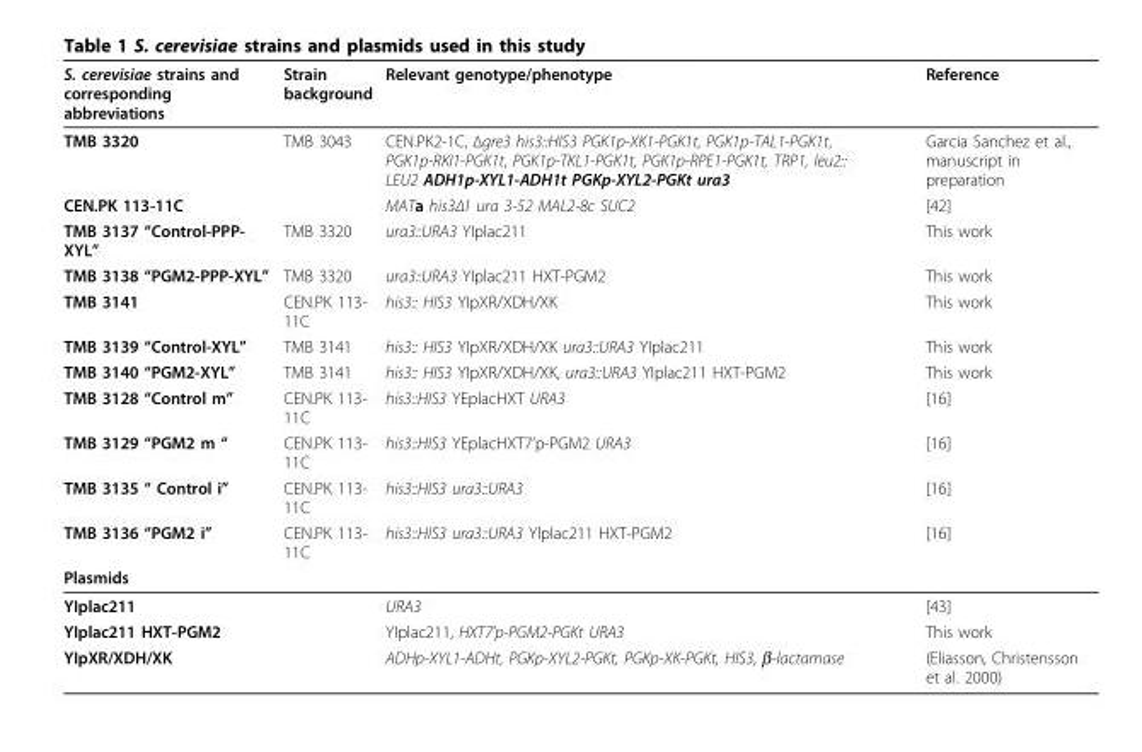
<table><thead><tr><td>S. cerevisiae strains and corresponding abbreviations</td><td>Strain background</td><td>Relevant genotype/phenotype</td><td>Reference</td></tr></thead><tbody><tr><td>TMB 3320</td><td>TMB 3043</td><td>CEN.PK2-1C, Δgre3 his3::HIS3 PGK1p-XK1-PGK1t, PGK1p-TAL1-PGK1t, PGK1p-RKI1-PGK1t, PGK1p-TKL1-PGK1t, PGK1p-RPE1-PGK1t, TRP1, leu2:: LEU2 ADH1p-XYL1-ADH1t PGKp-XYL2-PGKt ura3</td><td>Garcia Sanchez et al., manuscript in preparation</td></tr><tr><td>CEN.PK 113-11C</td><td></td><td>MATa his3Δ1 ura 3-52 MAL2-8c SUC2</td><td>[42]</td></tr><tr><td>TMB 3137 “Control-PPP- XYL”</td><td>TMB 3320</td><td>ura3::URA3 YIplac211</td><td>This work</td></tr><tr><td>TMB 3138 “PGM2-PPP-XYL”</td><td>TMB 3320</td><td>ura3::URA3 YIplac211 HXT-PGM2</td><td>This work</td></tr><tr><td>TMB 3141</td><td>CEN.PK 113- 11C</td><td>his3:: HIS3 YIpXR/XDH/XK</td><td>This work</td></tr><tr><td>TMB 3139 “Control-XYL”</td><td>TMB 3141</td><td>his3:: HIS3 YIpXR/XDH/XK ura3::URA3 YIplac211</td><td>This work</td></tr><tr><td>TMB 3140 “PGM2-XYL”</td><td>TMB 3141</td><td>his3:: HIS3 YIpXR/XDH/XK, ura3::URA3 YIplac211 HXT-PGM2</td><td>This work</td></tr><tr><td>TMB 3128 “Control m”</td><td>CEN.PK 113- 11C</td><td>his3::HIS3 YEplacHXT URA3</td><td>[16]</td></tr><tr><td>TMB 3129 “PGM2 m “</td><td>CEN.PK 113- 11C</td><td>his3::HIS3 YEplacHXT7’p-PGM2 URA3</td><td>[16]</td></tr><tr><td>TMB 3135 “ Control i”</td><td>CEN.PK 113- 11C</td><td>his3::HIS3 ura3::URA3</td><td>[16]</td></tr><tr><td>TMB 3136 “PGM2 i”</td><td>CEN.PK 113- 11C</td><td>his3::HIS3 ura3::URA3 Ylplac211 HXT-PGM2</td><td>[16]</td></tr><tr><td colspan="4">Plasmids</td></tr><tr><td>YIplac211</td><td></td><td>URA3</td><td>[43]</td></tr><tr><td>YIplac211 HXT-PGM2</td><td></td><td>YIplac211, HXT7’p-PGM2-PGKt URA3</td><td>This work</td></tr><tr><td>YIpXR/XDH/XK</td><td></td><td>ADHp-XYL1-ADHt, PGKp-XYL2-PGKt, PGKp-XK-PGKt, HIS3, β-lactamase</td><td>(Eliasson, Christensson et al. 2000)</td></tr></tbody></table>